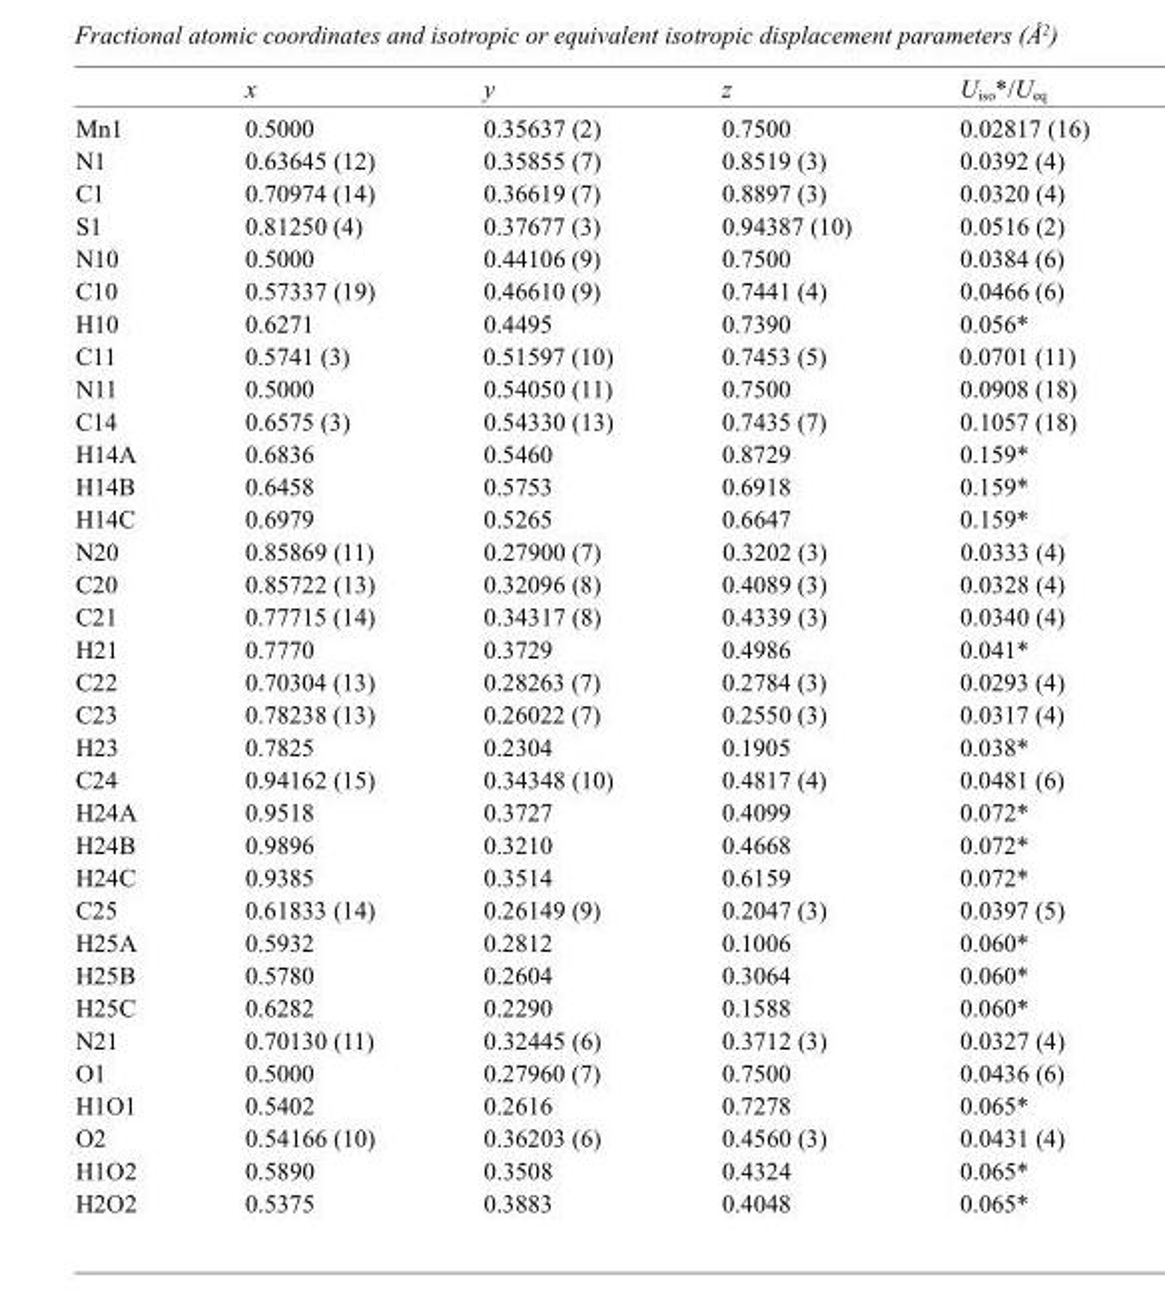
<table><thead><tr><td></td><td>x</td><td>y</td><td>z</td><td>U<sub>iso</sub>*/U<sub>eq</sub></td></tr></thead><tbody><tr><td>Mn1</td><td>0.5000</td><td>0.35637 (2)</td><td>0.7500</td><td>0.02817 (16)</td></tr><tr><td>N1</td><td>0.63645 (12)</td><td>0.35855 (7)</td><td>0.8519 (3)</td><td>0.0392 (4)</td></tr><tr><td>C1</td><td>0.70974 (14)</td><td>0.36619 (7)</td><td>0.8897 (3)</td><td>0.0320 (4)</td></tr><tr><td>S1</td><td>0.81250 (4)</td><td>0.37677 (3)</td><td>0.94387 (10)</td><td>0.0516 (2)</td></tr><tr><td>N10</td><td>0.5000</td><td>0.44106 (9)</td><td>0.7500</td><td>0.0384 (6)</td></tr><tr><td>C10</td><td>0.57337 (19)</td><td>0.46610 (9)</td><td>0.7441 (4)</td><td>0.0466 (6)</td></tr><tr><td>H10</td><td>0.6271</td><td>0.4495</td><td>0.7390</td><td>0.056*</td></tr><tr><td>C11</td><td>0.5741 (3)</td><td>0.51597 (10)</td><td>0.7453 (5)</td><td>0.0701 (11)</td></tr><tr><td>N11</td><td>0.5000</td><td>0.54050 (11)</td><td>0.7500</td><td>0.0908 (18)</td></tr><tr><td>C14</td><td>0.6575 (3)</td><td>0.54330 (13)</td><td>0.7435 (7)</td><td>0.1057 (18)</td></tr><tr><td>H14A</td><td>0.6836</td><td>0.5460</td><td>0.8729</td><td>0.159*</td></tr><tr><td>H14B</td><td>0.6458</td><td>0.5753</td><td>0.6918</td><td>0.159*</td></tr><tr><td>H14C</td><td>0.6979</td><td>0.5265</td><td>0.6647</td><td>0.159*</td></tr><tr><td>N20</td><td>0.85869 (11)</td><td>0.27900 (7)</td><td>0.3202 (3)</td><td>0.0333 (4)</td></tr><tr><td>C20</td><td>0.85722 (13)</td><td>0.32096 (8)</td><td>0.4089 (3)</td><td>0.0328 (4)</td></tr><tr><td>C21</td><td>0.77715 (14)</td><td>0.34317 (8)</td><td>0.4339 (3)</td><td>0.0340 (4)</td></tr><tr><td>H21</td><td>0.7770</td><td>0.3729</td><td>0.4986</td><td>0.041*</td></tr><tr><td>C22</td><td>0.70304 (13)</td><td>0.28263 (7)</td><td>0.2784 (3)</td><td>0.0293 (4)</td></tr><tr><td>C23</td><td>0.78238 (13)</td><td>0.26022 (7)</td><td>0.2550 (3)</td><td>0.0317 (4)</td></tr><tr><td>H23</td><td>0.7825</td><td>0.2304</td><td>0.1905</td><td>0.038*</td></tr><tr><td>C24</td><td>0.94162 (15)</td><td>0.34348 (10)</td><td>0.4817 (4)</td><td>0.0481 (6)</td></tr><tr><td>H24A</td><td>0.9518</td><td>0.3727</td><td>0.4099</td><td>0.072*</td></tr><tr><td>H24B</td><td>0.9896</td><td>0.3210</td><td>0.4668</td><td>0.072*</td></tr><tr><td>H24C</td><td>0.9385</td><td>0.3514</td><td>0.6159</td><td>0.072*</td></tr><tr><td>C25</td><td>0.61833 (14)</td><td>0.26149 (9)</td><td>0.2047 (3)</td><td>0.0397 (5)</td></tr><tr><td>H25A</td><td>0.5932</td><td>0.2812</td><td>0.1006</td><td>0.060*</td></tr><tr><td>H25B</td><td>0.5780</td><td>0.2604</td><td>0.3064</td><td>0.060*</td></tr><tr><td>H25C</td><td>0.6282</td><td>0.2290</td><td>0.1588</td><td>0.060*</td></tr><tr><td>N21</td><td>0.70130 (11)</td><td>0.32445 (6)</td><td>0.3712 (3)</td><td>0.0327 (4)</td></tr><tr><td>O1</td><td>0.5000</td><td>0.27960 (7)</td><td>0.7500</td><td>0.0436 (6)</td></tr><tr><td>H1O1</td><td>0.5402</td><td>0.2616</td><td>0.7278</td><td>0.065*</td></tr><tr><td>O2</td><td>0.54166 (10)</td><td>0.36203 (6)</td><td>0.4560 (3)</td><td>0.0431 (4)</td></tr><tr><td>H1O2</td><td>0.5890</td><td>0.3508</td><td>0.4324</td><td>0.065*</td></tr><tr><td>H2O2</td><td>0.5375</td><td>0.3883</td><td>0.4048</td><td>0.065*</td></tr></tbody></table>